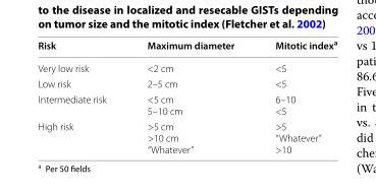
<table><thead><tr><td>Risk</td><td>Maximum diameter</td><td>Mitotic index<sup>a</sup></td></tr></thead><tbody><tr><td>Very low risk</td><td>&lt;2 cm</td><td>&lt;5</td></tr><tr><td>Low risk</td><td>2–5 cm</td><td>&lt;5</td></tr><tr><td>Intermediate risk</td><td>&lt;5 cm 5–10 cm</td><td>6–10 &lt;5</td></tr><tr><td>High risk</td><td>&gt;5 cm &gt;10 cm “Whatever”</td><td>&gt;5 “Whatever” &gt;10</td></tr></tbody></table>